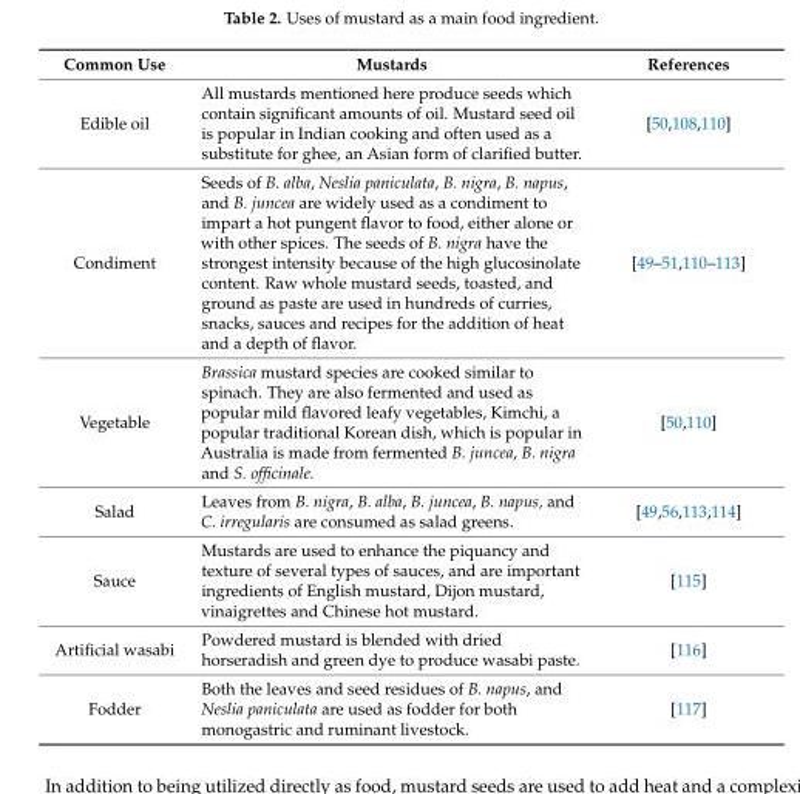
<table><thead><tr><td>Common Use</td><td>Mustards</td><td>References</td></tr></thead><tbody><tr><td>Edible oil</td><td>All mustards mentioned here produce seeds which contain significant amounts of oil. Mustard seed oil is popular in Indian cooking and often used as a substitute for ghee, an Asian form of clarified butter.</td><td>[50,108,110]</td></tr><tr><td>Condiment</td><td>Seeds of B. alba, Neslia paniculata, B. nigra, B. napus, and B. juncea are widely used as a condiment to impart a hot pungent flavor to food, either alone or with other spices. The seeds of B. nigra have the strongest intensity because of the high glucosinolate content. Raw whole mustard seeds, toasted, and ground as paste are used in hundreds of curries, snacks, sauces and recipes for the addition of heat and a depth of flavor.</td><td>[49–51,110–113]</td></tr><tr><td>Vegetable</td><td>Brassica mustard species are cooked similar to spinach. They are also fermented and used as popular mild flavored leafy vegetables, Kimchi, a popular traditional Korean dish, which is popular in Australia is made from fermented B. juncea, B. nigra and S. officinale.</td><td>[50,110]</td></tr><tr><td>Salad</td><td>Leaves from B. nigra, B. alba, B. juncea, B. napus, and C. irregularis are consumed as salad greens.</td><td>[49,56,113,114]</td></tr><tr><td>Sauce</td><td>Mustards are used to enhance the piquancy and texture of several types of sauces, and are important ingredients of English mustard, Dijon mustard, vinaigrettes and Chinese hot mustard.</td><td>[115]</td></tr><tr><td>Artificial wasabi</td><td>Powdered mustard is blended with dried horseradish and green dye to produce wasabi paste.</td><td>[116]</td></tr><tr><td>Fodder</td><td>Both the leaves and seed residues of B. napus, and Neslia paniculata are used as fodder for both monogastric and ruminant livestock.</td><td>[117]</td></tr></tbody></table>